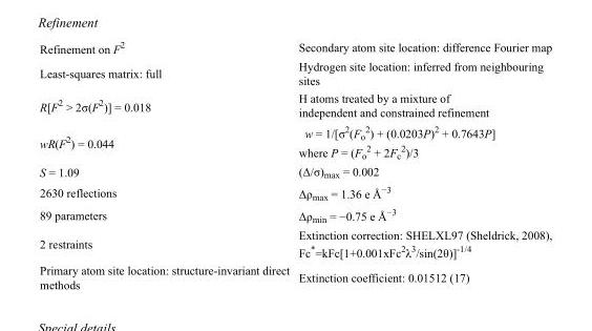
<table><tbody><tr><td>Refinement on F<sup>2</sup></td><td>Secondary atom site location: difference Fourier map</td></tr><tr><td>Least-squares matrix: full</td><td>Hydrogen site location: inferred from neighbouring sites</td></tr><tr><td>R[F<sup>2</sup> &gt; 2σ(F<sup>2</sup>)] = 0.018</td><td>H atoms treated by a mixture of independent and constrained refinement</td></tr><tr><td>wR(F<sup>2</sup>) = 0.044</td><td>w = 1/[σ<sup>2</sup>(F<sub>o</sub> <sup>2</sup>) + (0.0203P)<sup>2</sup> + 0.7643P] where P = (F<sub>o</sub> <sup>2</sup> + 2F<sub>c</sub> <sup>2</sup>)/3</td></tr><tr><td>S = 1.09</td><td>(Δ/σ)<sub>max</sub> = 0.002</td></tr><tr><td>2630 reflections</td><td>Δρ<sub>max</sub> = 1.36 e Å<sup>−3</sup></td></tr><tr><td>89 parameters</td><td>Δρ<sub>min</sub> = −0.75 e Å<sup>−3</sup></td></tr><tr><td>2 restraints</td><td>Extinction correction: SHELXL97 (Sheldrick, 2008), Fc*=kFc[1+0.001xFc<sup>2</sup>λ<sup>3</sup>/sin(2θ)]<sup>-1/4</sup></td></tr><tr><td>Primary atom site location: structure-invariant direct methods</td><td>Extinction coefficient: 0.01512 (17)</td></tr></tbody></table>